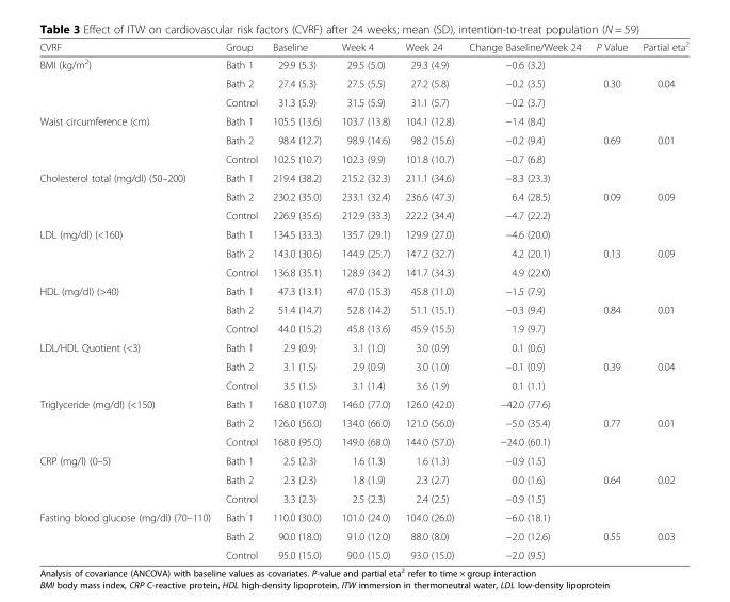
<table><thead><tr><td>CVRF</td><td>Group</td><td>Baseline</td><td>Week 4</td><td>Week 24</td><td>Change Baseline/Week 24</td><td>P Value</td><td>Partial eta<sup>2</sup></td></tr></thead><tbody><tr><td rowspan="3">BMI (kg/m<sup>2</sup>)</td><td>Bath 1</td><td>29.9 (5.3)</td><td>29.5 (5.0)</td><td>29.3 (4.9)</td><td>−0.6 (3.2)</td><td></td><td></td></tr><tr><td>Bath 2</td><td>27.4 (5.3)</td><td>27.5 (5.5)</td><td>27.2 (5.8)</td><td>−0.2 (3.5)</td><td>0.30</td><td>0.04</td></tr><tr><td>Control</td><td>31.3 (5.9)</td><td>31.5 (5.9)</td><td>31.1 (5.7)</td><td>−0.2 (3.7)</td><td></td><td></td></tr><tr><td rowspan="3">Waist circumference (cm)</td><td>Bath 1</td><td>105.5 (13.6)</td><td>103.7 (13.8)</td><td>104.1 (12.8)</td><td>−1.4 (8.4)</td><td></td><td></td></tr><tr><td>Bath 2</td><td>98.4 (12.7)</td><td>98.9 (14.6)</td><td>98.2 (15.6)</td><td>−0.2 (9.4)</td><td>0.69</td><td>0.01</td></tr><tr><td>Control</td><td>102.5 (10.7)</td><td>102.3 (9.9)</td><td>101.8 (10.7)</td><td>−0.7 (6.8)</td><td></td><td></td></tr><tr><td rowspan="3">Cholesterol total (mg/dl) (50–200)</td><td>Bath 1</td><td>219.4 (38.2)</td><td>215.2 (32.3)</td><td>211.1 (34.6)</td><td>−8.3 (23.3)</td><td></td><td></td></tr><tr><td>Bath 2</td><td>230.2 (35.0)</td><td>233.1 (32.4)</td><td>236.6 (47.3)</td><td>6.4 (28.5)</td><td>0.09</td><td>0.09</td></tr><tr><td>Control</td><td>226.9 (35.6)</td><td>212.9 (33.3)</td><td>222.2 (34.4)</td><td>−4.7 (22.2)</td><td></td><td></td></tr><tr><td rowspan="3">LDL (mg/dl) (&lt;160)</td><td>Bath 1</td><td>134.5 (33.3)</td><td>135.7 (29.1)</td><td>129.9 (27.0)</td><td>−4.6 (20.0)</td><td></td><td></td></tr><tr><td>Bath 2</td><td>143.0 (30.6)</td><td>144.9 (25.7)</td><td>147.2 (32.7)</td><td>4.2 (20.1)</td><td>0.13</td><td>0.09</td></tr><tr><td>Control</td><td>136.8 (35.1)</td><td>128.9 (34.2)</td><td>141.7 (34.3)</td><td>4.9 (22.0)</td><td></td><td></td></tr><tr><td rowspan="3">HDL (mg/dl) (&gt;40)</td><td>Bath 1</td><td>47.3 (13.1)</td><td>47.0 (15.3)</td><td>45.8 (11.0)</td><td>−1.5 (7.9)</td><td></td><td></td></tr><tr><td>Bath 2</td><td>51.4 (14.7)</td><td>52.8 (14.2)</td><td>51.1 (15.1)</td><td>−0.3 (9.4)</td><td>0.84</td><td>0.01</td></tr><tr><td>Control</td><td>44.0 (15.2)</td><td>45.8 (13.6)</td><td>45.9 (15.5)</td><td>1.9 (9.7)</td><td></td><td></td></tr><tr><td rowspan="3">LDL/HDL Quotient (&lt;3)</td><td>Bath 1</td><td>2.9 (0.9)</td><td>3.1 (1.0)</td><td>3.0 (0.9)</td><td>0.1 (0.6)</td><td></td><td></td></tr><tr><td>Bath 2</td><td>3.1 (1.5)</td><td>2.9 (0.9)</td><td>3.0 (1.0)</td><td>−0.1 (0.9)</td><td>0.39</td><td>0.04</td></tr><tr><td>Control</td><td>3.5 (1.5)</td><td>3.1 (1.4)</td><td>3.6 (1.9)</td><td>0.1 (1.1)</td><td></td><td></td></tr><tr><td rowspan="3">Triglyceride (mg/dl) (&lt;150)</td><td>Bath 1</td><td>168.0 (107.0)</td><td>146.0 (77.0)</td><td>126.0 (42.0)</td><td>−42.0 (77.6)</td><td></td><td></td></tr><tr><td>Bath 2</td><td>126.0 (56.0)</td><td>134.0 (66.0)</td><td>121.0 (56.0)</td><td>−5.0 (35.4)</td><td>0.77</td><td>0.01</td></tr><tr><td>Control</td><td>168.0 (95.0)</td><td>149.0 (68.0)</td><td>144.0 (57.0)</td><td>−24.0 (60.1)</td><td></td><td></td></tr><tr><td rowspan="3">CRP (mg/l) (0–5)</td><td>Bath 1</td><td>2.5 (2.3)</td><td>1.6 (1.3)</td><td>1.6 (1.3)</td><td>−0.9 (1.5)</td><td></td><td></td></tr><tr><td>Bath 2</td><td>2.3 (2.3)</td><td>1.8 (1.9)</td><td>2.3 (2.7)</td><td>0.0 (1.6)</td><td>0.64</td><td>0.02</td></tr><tr><td>Control</td><td>3.3 (2.3)</td><td>2.5 (2.3)</td><td>2.4 (2.5)</td><td>−0.9 (1.5)</td><td></td><td></td></tr><tr><td rowspan="3">Fasting blood glucose (mg/dl) (70–110)</td><td>Bath 1</td><td>110.0 (30.0)</td><td>101.0 (24.0)</td><td>104.0 (26.0)</td><td>−6.0 (18.1)</td><td></td><td></td></tr><tr><td>Bath 2</td><td>90.0 (18.0)</td><td>91.0 (12.0)</td><td>88.0 (8.0)</td><td>−2.0 (12.6)</td><td>0.55</td><td>0.03</td></tr><tr><td>Control</td><td>95.0 (15.0)</td><td>90.0 (15.0)</td><td>93.0 (15.0)</td><td>−2.0 (9.5)</td><td></td><td></td></tr></tbody></table>